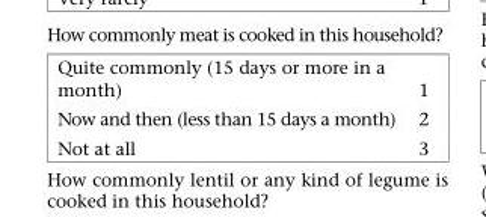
<table><tbody><tr><td>Quite commonly (15 days or more in a month)</td><td>1</td></tr><tr><td>Now and then (less than 15 days a month)</td><td>2</td></tr><tr><td>Not at all</td><td>3</td></tr></tbody></table>